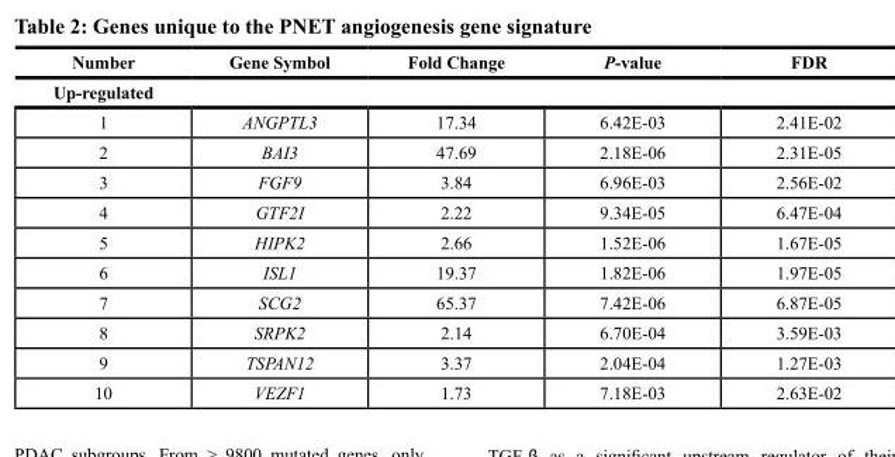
<table><thead><tr><td rowspan="2">number up-regulated</td><td rowspan="2">Gene symbol</td><td rowspan="2">Fold change</td><td rowspan="2">P-value</td><td rowspan="2">Fdr</td></tr><tr></tr></thead><tbody><tr><td>1</td><td>ANGPTL3</td><td>17.34</td><td>6.42E-03</td><td>2.41E-02</td></tr><tr><td>2</td><td>BAI3</td><td>47.69</td><td>2.18E-06</td><td>2.31E-05</td></tr><tr><td>3</td><td>FGF9</td><td>3.84</td><td>6.96E-03</td><td>2.56E-02</td></tr><tr><td>4</td><td>GTF2I</td><td>2.22</td><td>9.34E-05</td><td>6.47E-04</td></tr><tr><td>5</td><td>HIPK2</td><td>2.66</td><td>1.52E-06</td><td>1.67E-05</td></tr><tr><td>6</td><td>ISL1</td><td>19.37</td><td>1.82E-06</td><td>1.97E-05</td></tr><tr><td>7</td><td>SCG2</td><td>65.37</td><td>7.42E-06</td><td>6.87E-05</td></tr><tr><td>8</td><td>SRPK2</td><td>2.14</td><td>6.70E-04</td><td>3.59E-03</td></tr><tr><td>9</td><td>TSPAN12</td><td>3.37</td><td>2.04E-04</td><td>1.27E-03</td></tr><tr><td>10</td><td>VEZF1</td><td>1.73</td><td>7.18E-03</td><td>2.63E-02</td></tr></tbody></table>